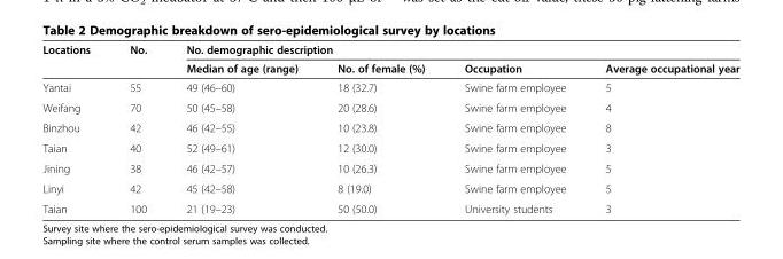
<table><thead><tr><td rowspan="2">Locations</td><td rowspan="2">No.</td><td colspan="4">No. demographic description</td></tr><tr><td>Median of age (range)</td><td>No. of female (%)</td><td>Occupation</td><td>Average occupational year</td></tr></thead><tbody><tr><td>Yantai</td><td>55</td><td>49 (46–60)</td><td>18 (32.7)</td><td>Swine farm employee</td><td>5</td></tr><tr><td>Weifang</td><td>70</td><td>50 (45–58)</td><td>20 (28.6)</td><td>Swine farm employee</td><td>4</td></tr><tr><td>Binzhou</td><td>42</td><td>46 (42–55)</td><td>10 (23.8)</td><td>Swine farm employee</td><td>8</td></tr><tr><td>Taian</td><td>40</td><td>52 (49–61)</td><td>12 (30.0)</td><td>Swine farm employee</td><td>3</td></tr><tr><td>Jining</td><td>38</td><td>46 (42–57)</td><td>10 (26.3)</td><td>Swine farm employee</td><td>5</td></tr><tr><td>Linyi</td><td>42</td><td>45 (42–58)</td><td>8 (19.0)</td><td>Swine farm employee</td><td>5</td></tr><tr><td>Taian</td><td>100</td><td>21 (19–23)</td><td>50 (50.0)</td><td>University students</td><td>3</td></tr></tbody></table>